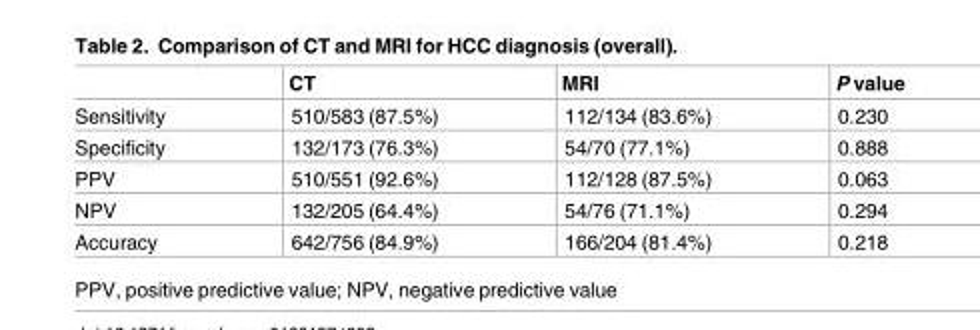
<table><thead><tr><td></td><td>CT</td><td>MRI</td><td>P value</td></tr></thead><tbody><tr><td>Sensitivity</td><td>510/583 (87.5%)</td><td>112/134 (83.6%)</td><td>0.230</td></tr><tr><td>Specificity</td><td>132/173 (76.3%)</td><td>54/70 (77.1%)</td><td>0.888</td></tr><tr><td>PPV</td><td>510/551 (92.6%)</td><td>112/128 (87.5%)</td><td>0.063</td></tr><tr><td>NPV</td><td>132/205 (64.4%)</td><td>54/76 (71.1%)</td><td>0.294</td></tr><tr><td>Accuracy</td><td>642/756 (84.9%)</td><td>166/204 (81.4%)</td><td>0.218</td></tr></tbody></table>